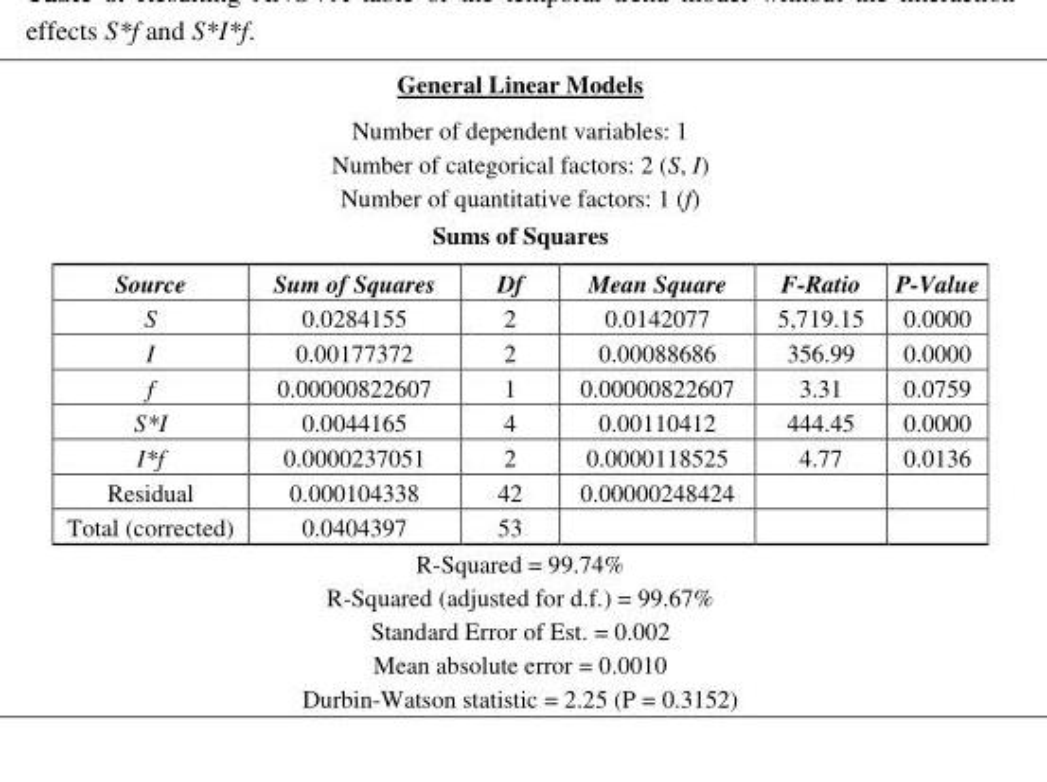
<table><tbody><tr><td colspan="6">General Linear Models</td></tr><tr><td colspan="6">Number of dependent variables: 1</td></tr><tr><td colspan="6">Number of categorical factors: 2 (S, I)</td></tr><tr><td colspan="6">Number of quantitative factors: 1 (f)</td></tr><tr><td colspan="6">Sums of Squares</td></tr><tr><td>Source</td><td>Sum of Squares</td><td>Df</td><td>Mean Square</td><td>F-Ratio</td><td>P-Value</td></tr><tr><td>S</td><td>0.0284155</td><td>2</td><td>0.0142077</td><td>5,719.15</td><td>0.0000</td></tr><tr><td>I</td><td>0.00177372</td><td>2</td><td>0.00088686</td><td>356.99</td><td>0.0000</td></tr><tr><td>f</td><td>0.00000822607</td><td>1</td><td>0.00000822607</td><td>3.31</td><td>0.0759</td></tr><tr><td>S*I</td><td>0.0044165</td><td>4</td><td>0.00110412</td><td>444.45</td><td>0.0000</td></tr><tr><td>I*f</td><td>0.0000237051</td><td>2</td><td>0.0000118525</td><td>4.77</td><td>0.0136</td></tr><tr><td>Residual</td><td>0.000104338</td><td>42</td><td>0.00000248424</td><td></td><td></td></tr><tr><td>Total (corrected)</td><td>0.0404397</td><td>53</td><td></td><td></td><td></td></tr><tr><td colspan="6">R-Squared = 99.74%</td></tr><tr><td colspan="6">R-Squared (adjusted for d.f.) = 99.67%</td></tr><tr><td colspan="6">Standard Error of Est. = 0.002</td></tr><tr><td colspan="6">Mean absolute error = 0.0010</td></tr><tr><td colspan="6">Durbin-Watson statistic = 2.25 (P = 0.3152)</td></tr></tbody></table>